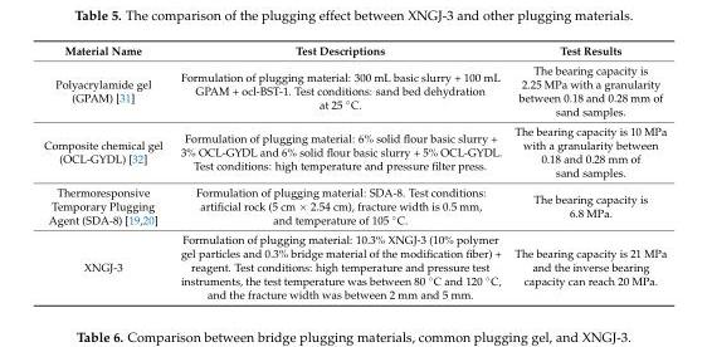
<table><thead><tr><td>Material Name</td><td>Test Descriptions</td><td>Test Results</td></tr></thead><tbody><tr><td>Polyacrylamide gel (GPAM) [31]</td><td>Formulation of plugging material: 300 mL basic slurry + 100 mL GPAM + ocl-BST-1. Test conditions: sand bed dehydration at 25 ◦C.</td><td>The bearing capacity is 2.25 MPa with a granularity between 0.18 and 0.28 mm of sand samples.</td></tr><tr><td>Composite chemical gel (OCL-GYDL) [32]</td><td>Formulation of plugging material: 6% solid flour basic slurry + 3% OCL-GYDL and 6% solid flour basic slurry + 5% OCL-GYDL. Test conditions: high temperature and pressure filter press.</td><td>The bearing capacity is 10 MPa with a granularity between 0.18 and 0.28 mm of sand samples.</td></tr><tr><td>Thermoresponsive Temporary Plugging Agent (SDA-8) [19,20]</td><td>Formulation of plugging material: SDA-8. Test conditions: artificial rock (5 cm × 2.54 cm), fracture width is 0.5 mm, and temperature of 105 ◦C.</td><td>The bearing capacity is 6.8 MPa.</td></tr><tr><td>XNGJ-3</td><td>Formulation of plugging material: 10.3% XNGJ-3 (10% polymer gel particles and 0.3% bridge material of the modification fiber) + reagent. Test conditions: high temperature and pressure test instruments, the test temperature was between 80 ◦C and 120 ◦C, and the fracture width was between 2 mm and 5 mm.</td><td>The bearing capacity is 21 MPa and the inverse bearing capacity can reach 20 MPa.</td></tr></tbody></table>